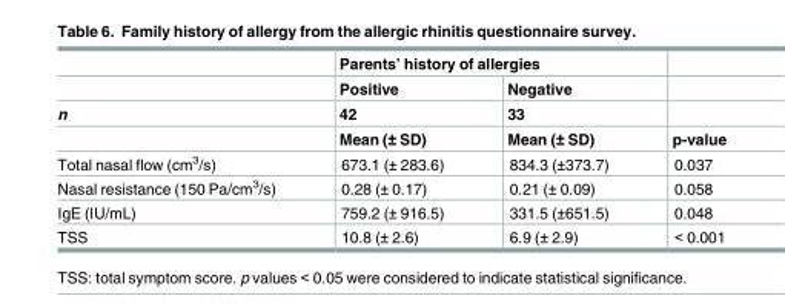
<table><thead><tr><td rowspan="4">n</td><td colspan="2">Parents’ history of allergies</td><td rowspan="4">p-value</td></tr><tr><td rowspan="3">Positive 42 Mean (± SD)</td><td rowspan="3">Negative 33 Mean (± SD)</td></tr><tr></tr><tr></tr></thead><tbody><tr><td>Total nasal flow (cm<sup>3</sup>/s)</td><td>673.1 (± 283.6)</td><td>834.3 (±373.7)</td><td>0.037</td></tr><tr><td>Nasal resistance (150 Pa/cm<sup>3</sup>/s)</td><td>0.28 (± 0.17)</td><td>0.21 (± 0.09)</td><td>0.058</td></tr><tr><td>IgE (IU/mL)</td><td>759.2 (± 916.5)</td><td>331.5 (±651.5)</td><td>0.048</td></tr><tr><td>TSS</td><td>10.8 (± 2.6)</td><td>6.9 (± 2.9)</td><td>&lt; 0.001</td></tr></tbody></table>